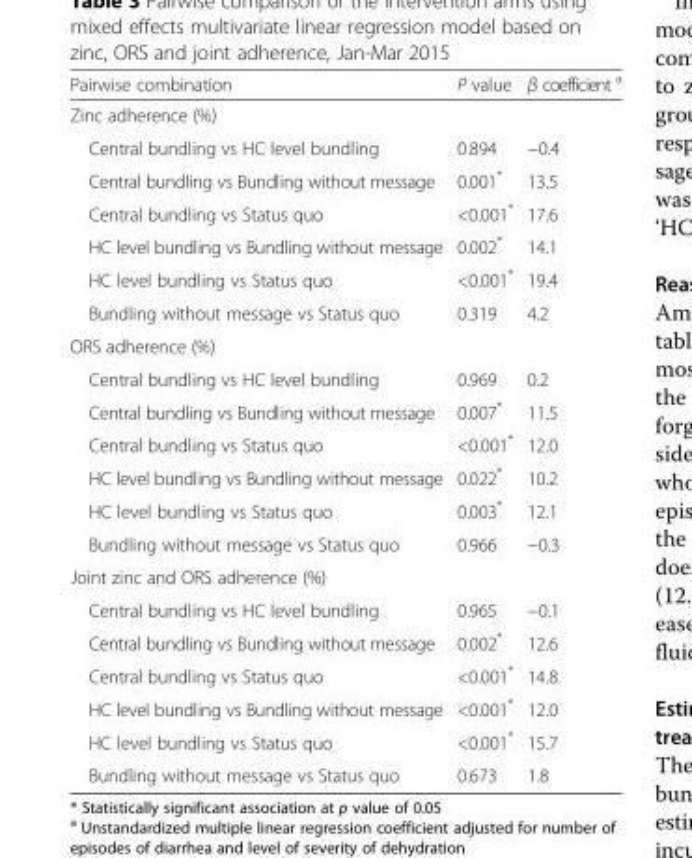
<table><thead><tr><td>Pairwise combination</td><td>P value</td><td>β coefficient <sup>a</sup></td></tr></thead><tbody><tr><td colspan="3">Zinc adherence (%)</td></tr><tr><td>Central bundling vs HC level bundling</td><td>0.894</td><td>−0.4</td></tr><tr><td>Central bundling vs Bundling without message</td><td>0.001*</td><td>13.5</td></tr><tr><td>Central bundling vs Status quo</td><td>&lt;0.001*</td><td>17.6</td></tr><tr><td>HC level bundling vs Bundling without message</td><td>0.002*</td><td>14.1</td></tr><tr><td>HC level bundling vs Status quo</td><td>&lt;0.001*</td><td>19.4</td></tr><tr><td>Bundling without message vs Status quo</td><td>0.319</td><td>4.2</td></tr><tr><td colspan="3">ORS adherence (%)</td></tr><tr><td>Central bundling vs HC level bundling</td><td>0.969</td><td>0.2</td></tr><tr><td>Central bundling vs Bundling without message</td><td>0.007*</td><td>11.5</td></tr><tr><td>Central bundling vs Status quo</td><td>&lt;0.001*</td><td>12.0</td></tr><tr><td>HC level bundling vs Bundling without message</td><td>0.022*</td><td>10.2</td></tr><tr><td>HC level bundling vs Status quo</td><td>0.003*</td><td>12.1</td></tr><tr><td>Bundling without message vs Status quo</td><td>0.966</td><td>−0.3</td></tr><tr><td colspan="3">Joint zinc and ORS adherence (%)</td></tr><tr><td>Central bundling vs HC level bundling</td><td>0.965</td><td>−0.1</td></tr><tr><td>Central bundling vs Bundling without message</td><td>0.002*</td><td>12.6</td></tr><tr><td>Central bundling vs Status quo</td><td>&lt;0.001*</td><td>14.8</td></tr><tr><td>HC level bundling vs Bundling without message</td><td>&lt;0.001*</td><td>12.0</td></tr><tr><td>HC level bundling vs Status quo</td><td>&lt;0.001*</td><td>15.7</td></tr><tr><td>Bundling without message vs Status quo</td><td>0.673</td><td>1.8</td></tr></tbody></table>